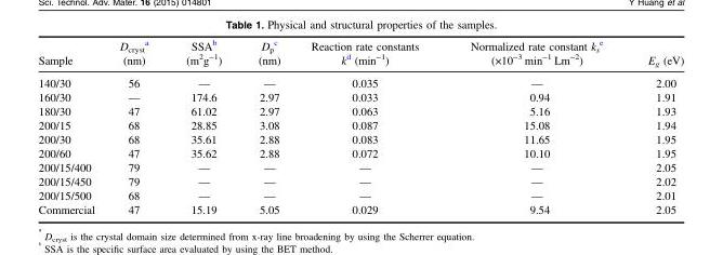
<table><thead><tr><td>Sample</td><td>D<sub>cryst</sub> <sup>a</sup> (nm)</td><td>SSA<sup>b</sup> (m<sup>2</sup>g<sup>−1</sup>)</td><td>D<sub>p</sub> <sup>c</sup> (nm)</td><td>Reaction rate constants k<sup>d</sup> (min<sup>−1</sup>)</td><td>Normalized rate constant k<sub>s</sub> <sup>e</sup> (×10<sup>−3</sup> min<sup>−1</sup> Lm<sup>−2</sup>)</td><td>E<sub>g</sub> (eV)</td></tr></thead><tbody><tr><td>140/30</td><td>56</td><td>—</td><td>—</td><td>0.035</td><td>—</td><td>2.00</td></tr><tr><td>160/30</td><td>—</td><td>174.6</td><td>2.97</td><td>0.033</td><td>0.94</td><td>1.91</td></tr><tr><td>180/30</td><td>47</td><td>61.02</td><td>2.97</td><td>0.063</td><td>5.16</td><td>1.93</td></tr><tr><td>200/15</td><td>68</td><td>28.85</td><td>3.08</td><td>0.087</td><td>15.08</td><td>1.94</td></tr><tr><td>200/30</td><td>68</td><td>35.61</td><td>2.88</td><td>0.083</td><td>11.65</td><td>1.95</td></tr><tr><td>200/60</td><td>47</td><td>35.62</td><td>2.88</td><td>0.072</td><td>10.10</td><td>1.95</td></tr><tr><td>200/15/400</td><td>79</td><td>—</td><td>—</td><td>—</td><td>—</td><td>2.05</td></tr><tr><td>200/15/450</td><td>79</td><td>—</td><td>—</td><td>—</td><td>—</td><td>2.02</td></tr><tr><td>200/15/500</td><td>68</td><td>—</td><td>—</td><td>—</td><td>—</td><td>2.01</td></tr><tr><td>Commercial</td><td>47</td><td>15.19</td><td>5.05</td><td>0.029</td><td>9.54</td><td>2.05</td></tr></tbody></table>